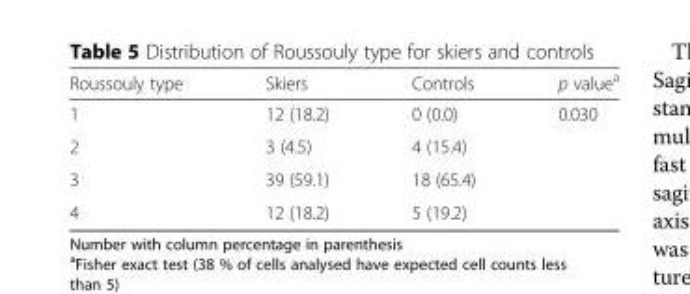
<table><thead><tr><td>Roussouly type</td><td>Skiers</td><td>Controls</td><td>p value<sup>a</sup></td></tr></thead><tbody><tr><td>1</td><td>12 (18.2)</td><td>0 (0.0)</td><td>0.030</td></tr><tr><td>2</td><td>3 (4.5)</td><td>4 (15.4)</td><td></td></tr><tr><td>3</td><td>39 (59.1)</td><td>18 (65.4)</td><td></td></tr><tr><td>4</td><td>12 (18.2)</td><td>5 (19.2)</td><td></td></tr></tbody></table>